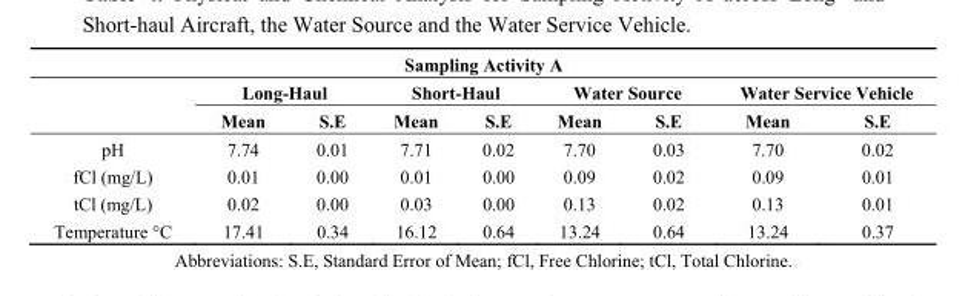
<table><thead><tr><td colspan="9">Sampling Activity A</td></tr><tr><td rowspan="2"></td><td colspan="2">Long-Haul</td><td colspan="2">Short-Haul</td><td colspan="2">Water Source</td><td colspan="2">Water Service Vehicle</td></tr><tr><td>Mean</td><td>S.E</td><td>Mean</td><td>S.E</td><td>Mean</td><td>S.E</td><td>Mean</td><td>S.E</td></tr></thead><tbody><tr><td>pH</td><td>7.74</td><td>0.01</td><td>7.71</td><td>0.02</td><td>7.70</td><td>0.03</td><td>7.70</td><td>0.02</td></tr><tr><td>fCl (mg/L)</td><td>0.01</td><td>0.00</td><td>0.01</td><td>0.00</td><td>0.09</td><td>0.02</td><td>0.09</td><td>0.01</td></tr><tr><td>tCl (mg/L)</td><td>0.02</td><td>0.00</td><td>0.03</td><td>0.00</td><td>0.13</td><td>0.02</td><td>0.13</td><td>0.01</td></tr><tr><td>Temperature °C</td><td>17.41</td><td>0.34</td><td>16.12</td><td>0.64</td><td>13.24</td><td>0.64</td><td>13.24</td><td>0.37</td></tr></tbody></table>